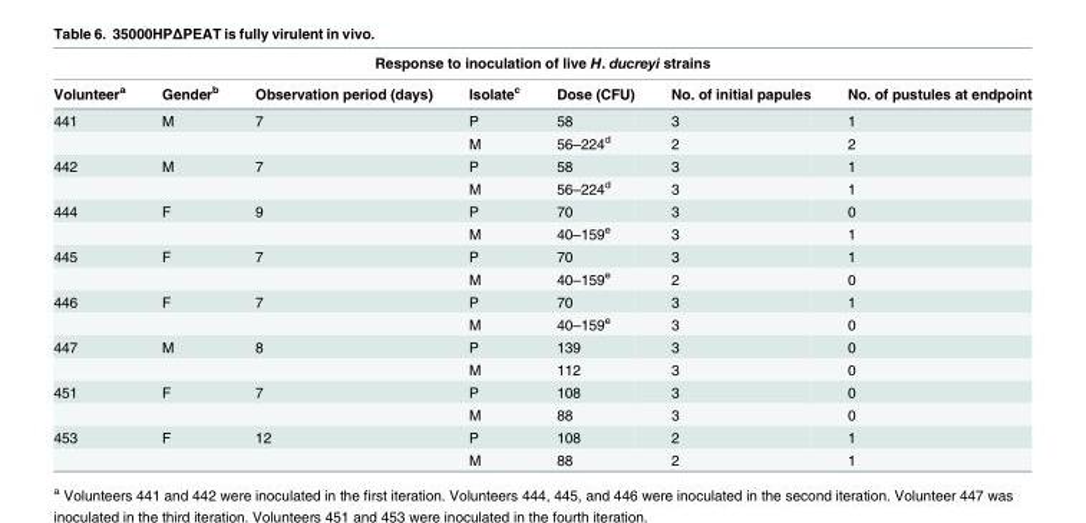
<table><thead><tr><td colspan="7">Response to inoculation of live H. ducreyi strains</td></tr><tr><td>Volunteer<sup>a</sup></td><td>Gender<sup>b</sup></td><td>Observation period (days)</td><td>Isolate<sup>c</sup></td><td>Dose (CFU)</td><td>No. of initial papules</td><td>No. of pustules at endpoint</td></tr></thead><tbody><tr><td rowspan="2">441</td><td>M</td><td>7</td><td>P</td><td>58</td><td>3</td><td>1</td></tr><tr><td></td><td></td><td>M</td><td>56–224<sup>d</sup></td><td>2</td><td>2</td></tr><tr><td rowspan="2">442</td><td>M</td><td>7</td><td>P</td><td>58</td><td>3</td><td>1</td></tr><tr><td></td><td></td><td>M</td><td>56–224<sup>d</sup></td><td>3</td><td>1</td></tr><tr><td rowspan="2">444</td><td>F</td><td>9</td><td>P</td><td>70</td><td>3</td><td>0</td></tr><tr><td></td><td></td><td>M</td><td>40–159<sup>e</sup></td><td>3</td><td>1</td></tr><tr><td rowspan="2">445</td><td>F</td><td>7</td><td>P</td><td>70</td><td>3</td><td>1</td></tr><tr><td></td><td></td><td>M</td><td>40–159<sup>e</sup></td><td>2</td><td>0</td></tr><tr><td rowspan="2">446</td><td>F</td><td>7</td><td>P</td><td>70</td><td>3</td><td>1</td></tr><tr><td></td><td></td><td>M</td><td>40–159<sup>e</sup></td><td>3</td><td>0</td></tr><tr><td rowspan="2">447</td><td>M</td><td>8</td><td>P</td><td>139</td><td>3</td><td>0</td></tr><tr><td></td><td></td><td>M</td><td>112</td><td>3</td><td>0</td></tr><tr><td rowspan="2">451</td><td>F</td><td>7</td><td>P</td><td>108</td><td>3</td><td>0</td></tr><tr><td></td><td></td><td>M</td><td>88</td><td>3</td><td>0</td></tr><tr><td rowspan="2">453</td><td>F</td><td>12</td><td>P</td><td>108</td><td>2</td><td>1</td></tr><tr><td></td><td></td><td>M</td><td>88</td><td>2</td><td>1</td></tr></tbody></table>